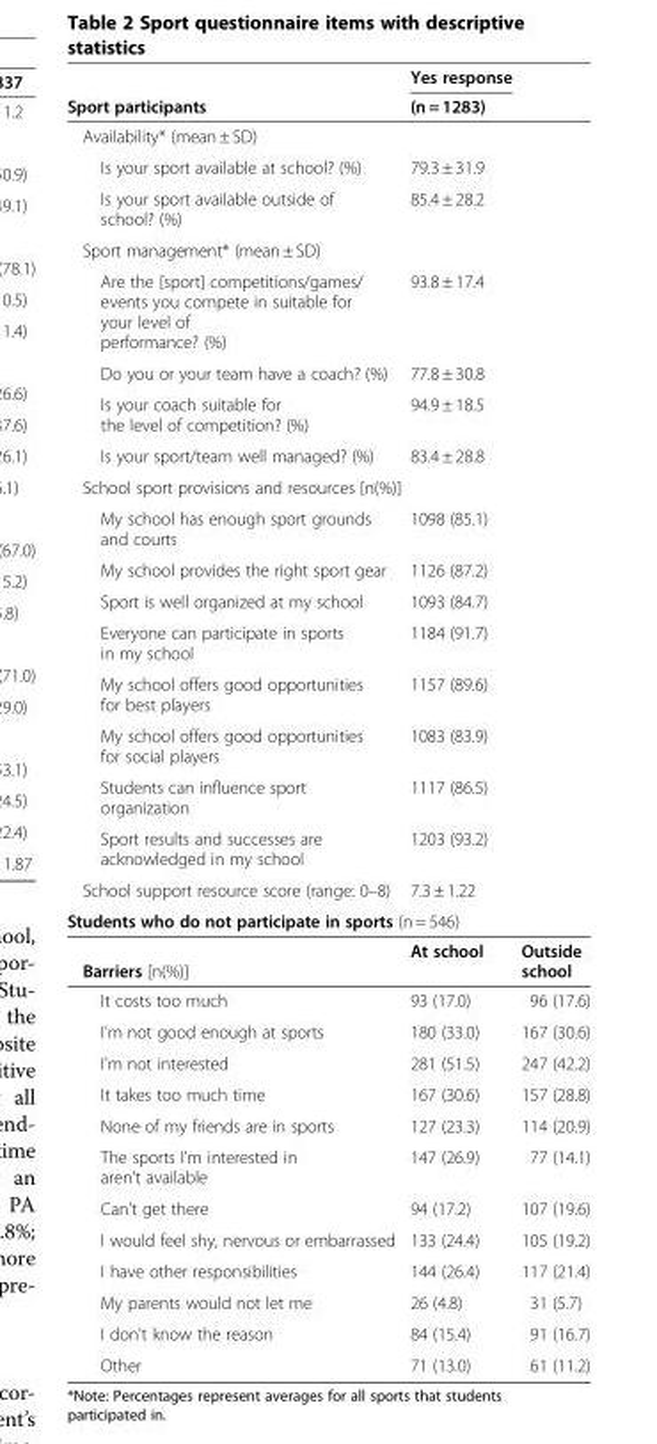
<table><thead><tr><td rowspan="2">Sport participants</td><td rowspan="2">Yes response (n = 1283)</td><td rowspan="2"></td></tr><tr></tr></thead><tbody><tr><td colspan="3">Availability* (mean ± SD)</td></tr><tr><td>Is your sport available at school? (%)</td><td>79.3 ± 31.9</td><td></td></tr><tr><td>Is your sport available outside of school? (%)</td><td>85.4 ± 28.2</td><td></td></tr><tr><td colspan="3">Sport management* (mean ± SD)</td></tr><tr><td>Are the [sport] competitions/games/ events you compete in suitable for your level of performance? (%)</td><td>93.8 ± 17.4</td><td></td></tr><tr><td>Do you or your team have a coach? (%)</td><td>77.8 ± 30.8</td><td></td></tr><tr><td>Is your coach suitable for the level of competition? (%)</td><td>94.9 ± 18.5</td><td></td></tr><tr><td>Is your sport/team well managed? (%)</td><td>83.4 ± 28.8</td><td></td></tr><tr><td colspan="3">School sport provisions and resources [n(%)]</td></tr><tr><td>My school has enough sport grounds and courts</td><td>1098 (85.1)</td><td></td></tr><tr><td>My school provides the right sport gear</td><td>1126 (87.2)</td><td></td></tr><tr><td>Sport is well organized at my school</td><td>1093 (84.7)</td><td></td></tr><tr><td>Everyone can participate in sports in my school</td><td>1184 (91.7)</td><td></td></tr><tr><td>My school offers good opportunities for best players</td><td>1157 (89.6)</td><td></td></tr><tr><td>My school offers good opportunities for social players</td><td>1083 (83.9)</td><td></td></tr><tr><td>Students can influence sport organization</td><td>1117 (86.5)</td><td></td></tr><tr><td>Sport results and successes are acknowledged in my school</td><td>1203 (93.2)</td><td></td></tr><tr><td>School support resource score (range: 0–8)</td><td>7.3 ± 1.22</td><td></td></tr><tr><td colspan="3">Students who do not participate in sports (n = 546)</td></tr><tr><td>Barriers [n(%)]</td><td>At school</td><td>Outside school</td></tr><tr><td>It costs too much</td><td>93 (17.0)</td><td>96 (17.6)</td></tr><tr><td>I&#x27;m not good enough at sports</td><td>180 (33.0)</td><td>167 (30.6)</td></tr><tr><td>I&#x27;m not interested</td><td>281 (51.5)</td><td>247 (42.2)</td></tr><tr><td>It takes too much time</td><td>167 (30.6)</td><td>157 (28.8)</td></tr><tr><td>None of my friends are in sports</td><td>127 (23.3)</td><td>114 (20.9)</td></tr><tr><td>The sports I&#x27;m interested in aren&#x27;t available</td><td>147 (26.9)</td><td>77 (14.1)</td></tr><tr><td>Can&#x27;t get there</td><td>94 (17.2)</td><td>107 (19.6)</td></tr><tr><td>I would feel shy, nervous or embarrassed</td><td>133 (24.4)</td><td>105 (19.2)</td></tr><tr><td>I have other responsibilities</td><td>144 (26.4)</td><td>117 (21.4)</td></tr><tr><td>My parents would not let me</td><td>26 (4.8)</td><td>31 (5.7)</td></tr><tr><td>I don&#x27;t know the reason</td><td>84 (15.4)</td><td>91 (16.7)</td></tr><tr><td>Other</td><td>71 (13.0)</td><td>61 (11.2)</td></tr></tbody></table>